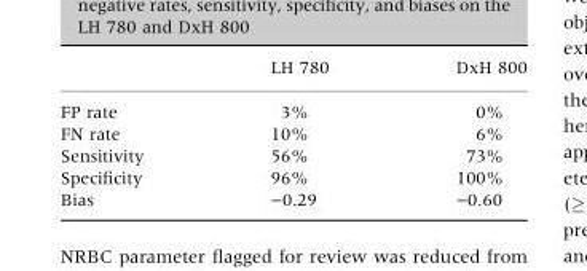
<table><thead><tr><td></td><td>LH 780</td><td>DxH 800</td></tr></thead><tbody><tr><td>FP rate</td><td>3%</td><td>0%</td></tr><tr><td>FN rate</td><td>10%</td><td>6%</td></tr><tr><td>Sensitivity</td><td>56%</td><td>73%</td></tr><tr><td>Specificity</td><td>96%</td><td>100%</td></tr><tr><td>Bias</td><td>−0.29</td><td>−0.60</td></tr></tbody></table>